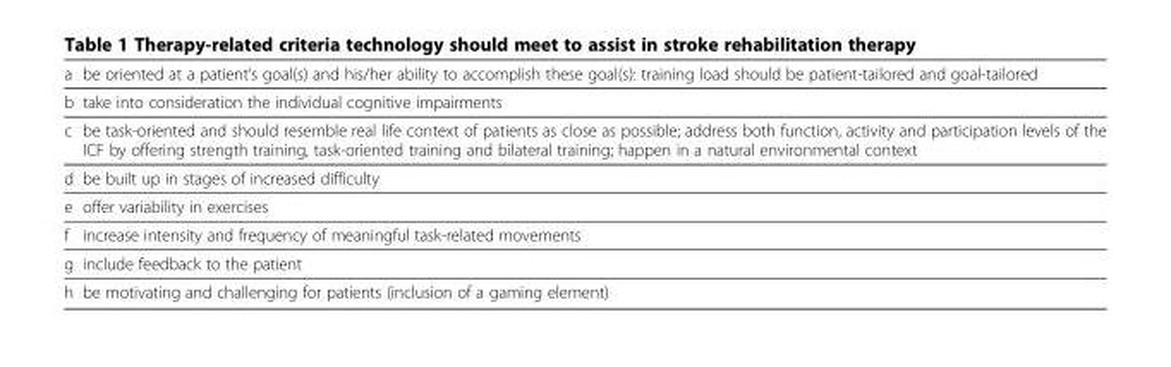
<table><tbody><tr><td>a</td><td>be oriented at a patient’s goal(s) and his/her ability to accomplish these goal(s): training load should be patient-tailored and goal-tailored</td></tr><tr><td>b</td><td>take into consideration the individual cognitive impairments</td></tr><tr><td>c</td><td>be task-oriented and should resemble real life context of patients as close as possible; address both function, activity and participation levels of the ICF by offering strength training, task-oriented training and bilateral training; happen in a natural environmental context</td></tr><tr><td>d</td><td>be built up in stages of increased difficulty</td></tr><tr><td>e</td><td>offer variability in exercises</td></tr><tr><td>f</td><td>increase intensity and frequency of meaningful task-related movements</td></tr><tr><td>g</td><td>include feedback to the patient</td></tr><tr><td>h</td><td>be motivating and challenging for patients (inclusion of a gaming element)</td></tr></tbody></table>